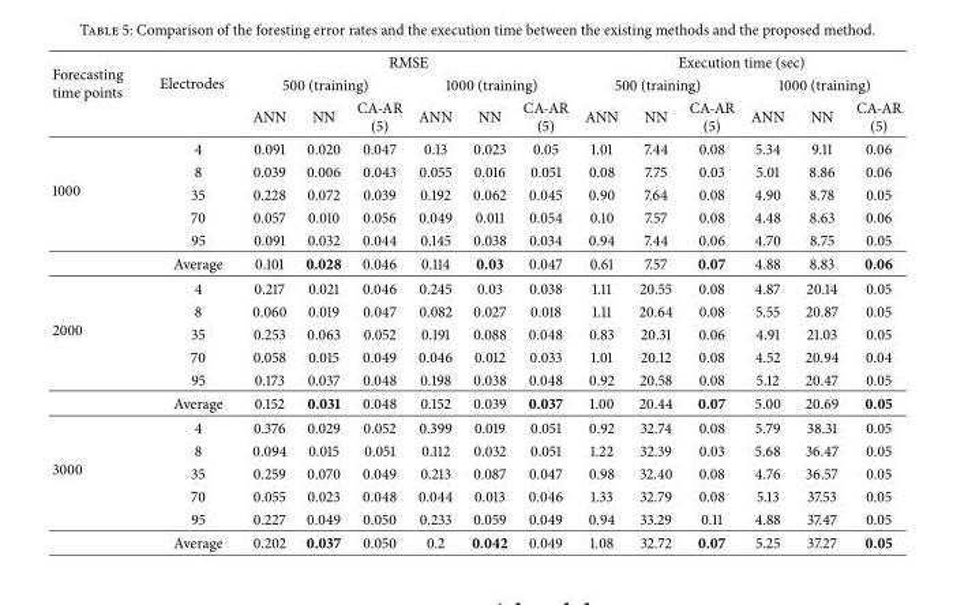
<table><thead><tr><td rowspan="3">Forecasting time points</td><td rowspan="3">Electrodes</td><td colspan="6">RMSE</td><td colspan="6">Execution time (sec)</td></tr><tr><td colspan="3">500 (training)</td><td colspan="3">1000 (training)</td><td colspan="3">500 (training)</td><td colspan="3">1000 (training)</td></tr><tr><td>ANN</td><td>NN</td><td>CA-AR (5)</td><td>ANN</td><td>NN</td><td>CA-AR (5)</td><td>ANN</td><td>NN</td><td>CA-AR (5)</td><td>ANN</td><td>NN</td><td>CA-AR (5)</td></tr></thead><tbody><tr><td rowspan="6">1000</td><td>4</td><td>0.091</td><td>0.020</td><td>0.047</td><td>0.13</td><td>0.023</td><td>0.05</td><td>1.01</td><td>7.44</td><td>0.08</td><td>5.34</td><td>9.11</td><td>0.06</td></tr><tr><td>8</td><td>0.039</td><td>0.006</td><td>0.043</td><td>0.055</td><td>0.016</td><td>0.051</td><td>0.08</td><td>7.75</td><td>0.03</td><td>5.01</td><td>8.86</td><td>0.06</td></tr><tr><td>35</td><td>0.228</td><td>0.072</td><td>0.039</td><td>0.192</td><td>0.062</td><td>0.045</td><td>0.90</td><td>7.64</td><td>0.08</td><td>4.90</td><td>8.78</td><td>0.05</td></tr><tr><td>70</td><td>0.057</td><td>0.010</td><td>0.056</td><td>0.049</td><td>0.011</td><td>0.054</td><td>0.10</td><td>7.57</td><td>0.08</td><td>4.48</td><td>8.63</td><td>0.06</td></tr><tr><td>95</td><td>0.091</td><td>0.032</td><td>0.044</td><td>0.145</td><td>0.038</td><td>0.034</td><td>0.94</td><td>7.44</td><td>0.06</td><td>4.70</td><td>8.75</td><td>0.05</td></tr><tr><td>Average</td><td>0.101</td><td>0.028</td><td>0.046</td><td>0.114</td><td>0.03</td><td>0.047</td><td>0.61</td><td>7.57</td><td>0.07</td><td>4.88</td><td>8.83</td><td>0.06</td></tr><tr><td rowspan="6">2000</td><td>4</td><td>0.217</td><td>0.021</td><td>0.046</td><td>0.245</td><td>0.03</td><td>0.038</td><td>1.11</td><td>20.55</td><td>0.08</td><td>4.87</td><td>20.14</td><td>0.05</td></tr><tr><td>8</td><td>0.060</td><td>0.019</td><td>0.047</td><td>0.082</td><td>0.027</td><td>0.018</td><td>1.11</td><td>20.64</td><td>0.08</td><td>5.55</td><td>20.87</td><td>0.05</td></tr><tr><td>35</td><td>0.253</td><td>0.063</td><td>0.052</td><td>0.191</td><td>0.088</td><td>0.048</td><td>0.83</td><td>20.31</td><td>0.06</td><td>4.91</td><td>21.03</td><td>0.05</td></tr><tr><td>70</td><td>0.058</td><td>0.015</td><td>0.049</td><td>0.046</td><td>0.012</td><td>0.033</td><td>1.01</td><td>20.12</td><td>0.08</td><td>4.52</td><td>20.94</td><td>0.04</td></tr><tr><td>95</td><td>0.173</td><td>0.037</td><td>0.048</td><td>0.198</td><td>0.038</td><td>0.048</td><td>0.92</td><td>20.58</td><td>0.08</td><td>5.12</td><td>20.47</td><td>0.05</td></tr><tr><td>Average</td><td>0.152</td><td>0.031</td><td>0.048</td><td>0.152</td><td>0.039</td><td>0.037</td><td>1.00</td><td>20.44</td><td>0.07</td><td>5.00</td><td>20.69</td><td>0.05</td></tr><tr><td rowspan="6">3000</td><td>4</td><td>0.376</td><td>0.029</td><td>0.052</td><td>0.399</td><td>0.019</td><td>0.051</td><td>0.92</td><td>32.74</td><td>0.08</td><td>5.79</td><td>38.31</td><td>0.05</td></tr><tr><td>8</td><td>0.094</td><td>0.015</td><td>0.051</td><td>0.112</td><td>0.032</td><td>0.051</td><td>1.22</td><td>32.39</td><td>0.03</td><td>5.68</td><td>36.47</td><td>0.05</td></tr><tr><td>35</td><td>0.259</td><td>0.070</td><td>0.049</td><td>0.213</td><td>0.087</td><td>0.047</td><td>0.98</td><td>32.40</td><td>0.08</td><td>4.76</td><td>36.57</td><td>0.05</td></tr><tr><td>70</td><td>0.055</td><td>0.023</td><td>0.048</td><td>0.044</td><td>0.013</td><td>0.046</td><td>1.33</td><td>32.79</td><td>0.08</td><td>5.13</td><td>37.53</td><td>0.05</td></tr><tr><td>95</td><td>0.227</td><td>0.049</td><td>0.050</td><td>0.233</td><td>0.059</td><td>0.049</td><td>0.94</td><td>33.29</td><td>0.11</td><td>4.88</td><td>37.47</td><td>0.05</td></tr><tr><td>Average</td><td>0.202</td><td>0.037</td><td>0.050</td><td>0.2</td><td>0.042</td><td>0.049</td><td>1.08</td><td>32.72</td><td>0.07</td><td>5.25</td><td>37.27</td><td>0.05</td></tr></tbody></table>